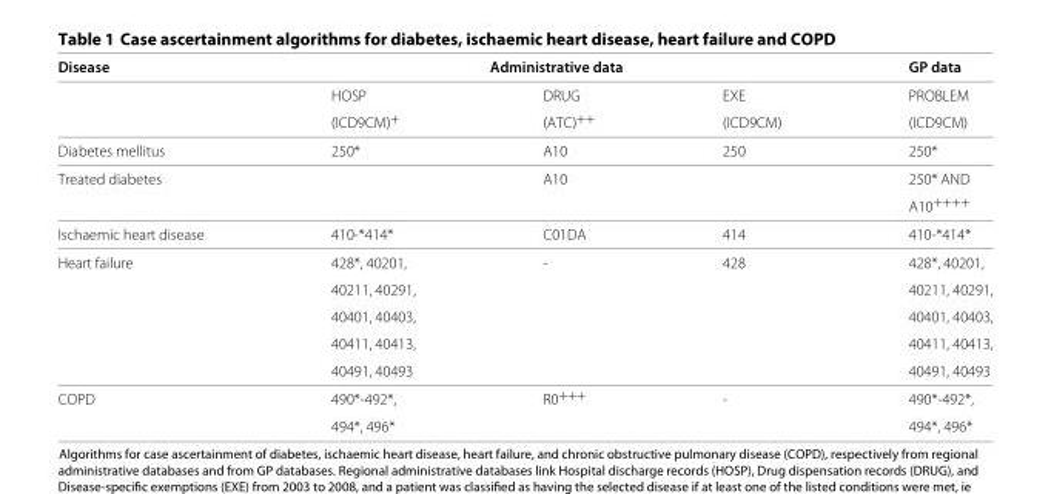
<table><thead><tr><td rowspan="2">Disease</td><td colspan="3">Administrative data</td><td rowspan="2">GP data PROBLEM</td></tr><tr><td>HOSP</td><td>DRUG</td><td>EXE</td></tr></thead><tbody><tr><td></td><td>(ICD9CM)<sup>+</sup></td><td>(ATC)<sup>++</sup></td><td>(ICD9CM)</td><td>(ICD9CM)</td></tr><tr><td>Diabetes mellitus</td><td>250*</td><td>A10</td><td>250</td><td>250*</td></tr><tr><td rowspan="2">Treated diabetes</td><td></td><td>A10</td><td></td><td>250* AND</td></tr><tr><td></td><td></td><td></td><td>A10<sup>++++</sup></td></tr><tr><td>Ischaemic heart disease</td><td>410-*414*</td><td>C01DA</td><td>414</td><td>410-*414*</td></tr><tr><td rowspan="5">Heart failure</td><td>428*, 40201,</td><td>-</td><td>428</td><td>428*, 40201,</td></tr><tr><td>40211, 40291,</td><td></td><td></td><td>40211, 40291,</td></tr><tr><td>40401, 40403,</td><td></td><td></td><td>40401, 40403,</td></tr><tr><td>40411, 40413,</td><td></td><td></td><td>40411, 40413,</td></tr><tr><td>40491, 40493</td><td></td><td></td><td>40491, 40493</td></tr><tr><td rowspan="2">COPD</td><td>490*-492*,</td><td>R0<sup>+++</sup></td><td>-</td><td>490*-492*,</td></tr><tr><td>494*, 496*</td><td></td><td></td><td>494*, 496*</td></tr></tbody></table>